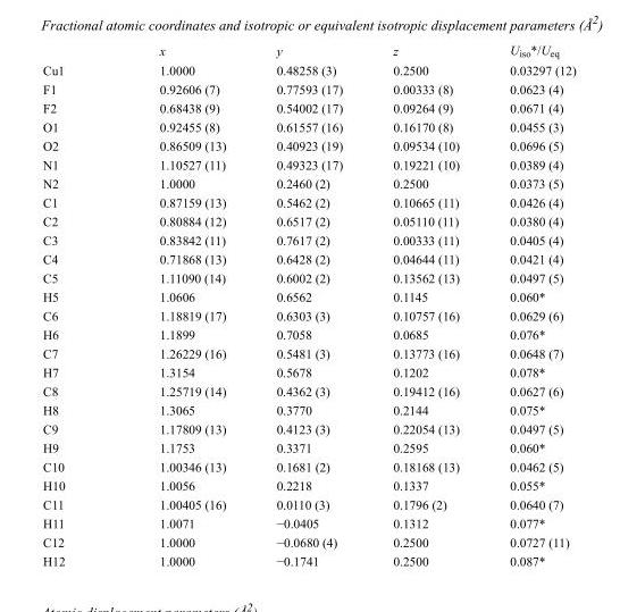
<table><thead><tr><td></td><td>x</td><td>y</td><td>z</td><td>U<sub>iso</sub>*/U<sub>eq</sub></td></tr></thead><tbody><tr><td>Cu1</td><td>1.0000</td><td>0.48258 (3)</td><td>0.2500</td><td>0.03297 (12)</td></tr><tr><td>F1</td><td>0.92606 (7)</td><td>0.77593 (17)</td><td>0.00333 (8)</td><td>0.0623 (4)</td></tr><tr><td>F2</td><td>0.68438 (9)</td><td>0.54002 (17)</td><td>0.09264 (9)</td><td>0.0671 (4)</td></tr><tr><td>O1</td><td>0.92455 (8)</td><td>0.61557 (16)</td><td>0.16170 (8)</td><td>0.0455 (3)</td></tr><tr><td>O2</td><td>0.86509 (13)</td><td>0.40923 (19)</td><td>0.09534 (10)</td><td>0.0696 (5)</td></tr><tr><td>N1</td><td>1.10527 (11)</td><td>0.49323 (17)</td><td>0.19221 (10)</td><td>0.0389 (4)</td></tr><tr><td>N2</td><td>1.0000</td><td>0.2460 (2)</td><td>0.2500</td><td>0.0373 (5)</td></tr><tr><td>C1</td><td>0.87159 (13)</td><td>0.5462 (2)</td><td>0.10665 (11)</td><td>0.0426 (4)</td></tr><tr><td>C2</td><td>0.80884 (12)</td><td>0.6517 (2)</td><td>0.05110 (11)</td><td>0.0380 (4)</td></tr><tr><td>C3</td><td>0.83842 (11)</td><td>0.7617 (2)</td><td>0.00333 (11)</td><td>0.0405 (4)</td></tr><tr><td>C4</td><td>0.71868 (13)</td><td>0.6428 (2)</td><td>0.04644 (11)</td><td>0.0421 (4)</td></tr><tr><td>C5</td><td>1.11090 (14)</td><td>0.6002 (2)</td><td>0.13562 (13)</td><td>0.0497 (5)</td></tr><tr><td>H5</td><td>1.0606</td><td>0.6562</td><td>0.1145</td><td>0.060*</td></tr><tr><td>C6</td><td>1.18819 (17)</td><td>0.6303 (3)</td><td>0.10757 (16)</td><td>0.0629 (6)</td></tr><tr><td>H6</td><td>1.1899</td><td>0.7058</td><td>0.0685</td><td>0.076*</td></tr><tr><td>C7</td><td>1.26229 (16)</td><td>0.5481 (3)</td><td>0.13773 (16)</td><td>0.0648 (7)</td></tr><tr><td>H7</td><td>1.3154</td><td>0.5678</td><td>0.1202</td><td>0.078*</td></tr><tr><td>C8</td><td>1.25719 (14)</td><td>0.4362 (3)</td><td>0.19412 (16)</td><td>0.0627 (6)</td></tr><tr><td>H8</td><td>1.3065</td><td>0.3770</td><td>0.2144</td><td>0.075*</td></tr><tr><td>C9</td><td>1.17809 (13)</td><td>0.4123 (3)</td><td>0.22054 (13)</td><td>0.0497 (5)</td></tr><tr><td>H9</td><td>1.1753</td><td>0.3371</td><td>0.2595</td><td>0.060*</td></tr><tr><td>C10</td><td>1.00346 (13)</td><td>0.1681 (2)</td><td>0.18168 (13)</td><td>0.0462 (5)</td></tr><tr><td>H10</td><td>1.0056</td><td>0.2218</td><td>0.1337</td><td>0.055*</td></tr><tr><td>C11</td><td>1.00405 (16)</td><td>0.0110 (3)</td><td>0.1796 (2)</td><td>0.0640 (7)</td></tr><tr><td>H11</td><td>1.0071</td><td>−0.0405</td><td>0.1312</td><td>0.077*</td></tr><tr><td>C12</td><td>1.0000</td><td>−0.0680 (4)</td><td>0.2500</td><td>0.0727 (11)</td></tr><tr><td>H12</td><td>1.0000</td><td>−0.1741</td><td>0.2500</td><td>0.087*</td></tr></tbody></table>